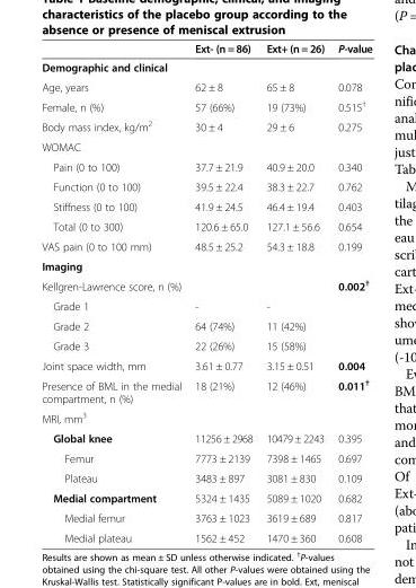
<table><thead><tr><td></td><td>Ext- (n = 86)</td><td>Ext+ (n = 26)</td><td>P-value</td></tr></thead><tbody><tr><td colspan="4">Demographic and clinical</td></tr><tr><td>Age, years</td><td>62 ± 8</td><td>65 ± 8</td><td>0.078</td></tr><tr><td>Female, n (%)</td><td>57 (66%)</td><td>19 (73%)</td><td>0.515<sup>†</sup></td></tr><tr><td>Body mass index, kg/m<sup>2</sup></td><td>30 ± 4</td><td>29 ± 6</td><td>0.275</td></tr><tr><td colspan="4">WOMAC</td></tr><tr><td>Pain (0 to 100)</td><td>37.7 ± 21.9</td><td>40.9 ± 20.0</td><td>0.340</td></tr><tr><td>Function (0 to 100)</td><td>39.5 ± 22.4</td><td>38.3 ± 22.7</td><td>0.762</td></tr><tr><td>Stiffness (0 to 100)</td><td>41.9 ± 24.5</td><td>46.4 ± 19.4</td><td>0.403</td></tr><tr><td>Total (0 to 300)</td><td>120.6 ± 65.0</td><td>127.1 ± 56.6</td><td>0.654</td></tr><tr><td>VAS pain (0 to 100 mm)</td><td>48.5 ± 25.2</td><td>54.3 ± 18.8</td><td>0.199</td></tr><tr><td colspan="4">Imaging</td></tr><tr><td>Kellgren-Lawrence score, n (%)</td><td></td><td></td><td>0.002<sup>†</sup></td></tr><tr><td>Grade 1</td><td>-</td><td>-</td><td></td></tr><tr><td>Grade 2</td><td>64 (74%)</td><td>11 (42%)</td><td></td></tr><tr><td>Grade 3</td><td>22 (26%)</td><td>15 (58%)</td><td></td></tr><tr><td>Joint space width, mm</td><td>3.61 ± 0.77</td><td>3.15 ± 0.51</td><td>0.004</td></tr><tr><td>Presence of BML in the medial compartment, n (%)</td><td>18 (21%)</td><td>12 (46%)</td><td>0.011<sup>†</sup></td></tr><tr><td colspan="4">MRI, mm<sup>3</sup></td></tr><tr><td>Global knee</td><td>11256 ± 2968</td><td>10479 ± 2243</td><td>0.395</td></tr><tr><td>Femur</td><td>7773 ± 2139</td><td>7398 ± 1465</td><td>0.697</td></tr><tr><td>Plateau</td><td>3483 ± 897</td><td>3081 ± 830</td><td>0.109</td></tr><tr><td>Medial compartment</td><td>5324 ± 1435</td><td>5089 ± 1020</td><td>0.682</td></tr><tr><td>Medial femur</td><td>3763 ± 1023</td><td>3619 ± 689</td><td>0.817</td></tr><tr><td>Medial plateau</td><td>1562 ± 452</td><td>1470 ± 360</td><td>0.608</td></tr></tbody></table>